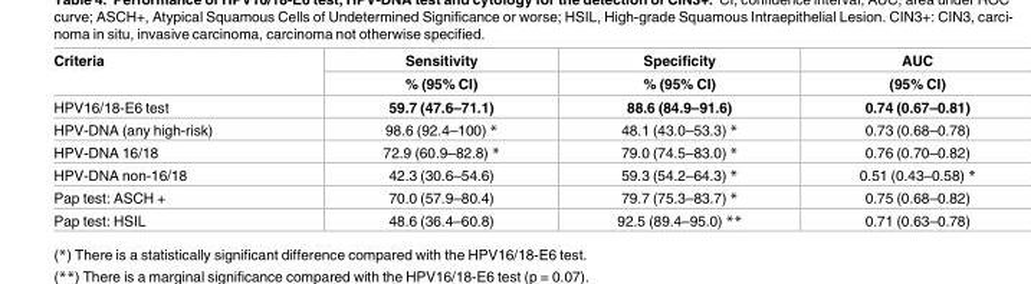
<table><thead><tr><td rowspan="2">Criteria</td><td rowspan="2">Sensitivity % (95% CI)</td><td rowspan="2">Specificity % (95% CI)</td><td rowspan="2">AUC (95% CI)</td></tr><tr></tr></thead><tbody><tr><td>HPV16/18-E6 test</td><td>59.7 (47.6–71.1)</td><td>88.6 (84.9–91.6)</td><td>0.74 (0.67–0.81)</td></tr><tr><td>HPV-DNA (any high-risk)</td><td>98.6 (92.4–100) *</td><td>48.1 (43.0–53.3) *</td><td>0.73 (0.68–0.78)</td></tr><tr><td>HPV-DNA 16/18</td><td>72.9 (60.9–82.8) *</td><td>79.0 (74.5–83.0) *</td><td>0.76 (0.70–0.82)</td></tr><tr><td>HPV-DNA non-16/18</td><td>42.3 (30.6–54.6)</td><td>59.3 (54.2–64.3) *</td><td>0.51 (0.43–0.58) *</td></tr><tr><td>Pap test: ASCH +</td><td>70.0 (57.9–80.4)</td><td>79.7 (75.3–83.7) *</td><td>0.75 (0.68–0.82)</td></tr><tr><td>Pap test: HSIL</td><td>48.6 (36.4–60.8)</td><td>92.5 (89.4–95.0) **</td><td>0.71 (0.63–0.78)</td></tr></tbody></table>